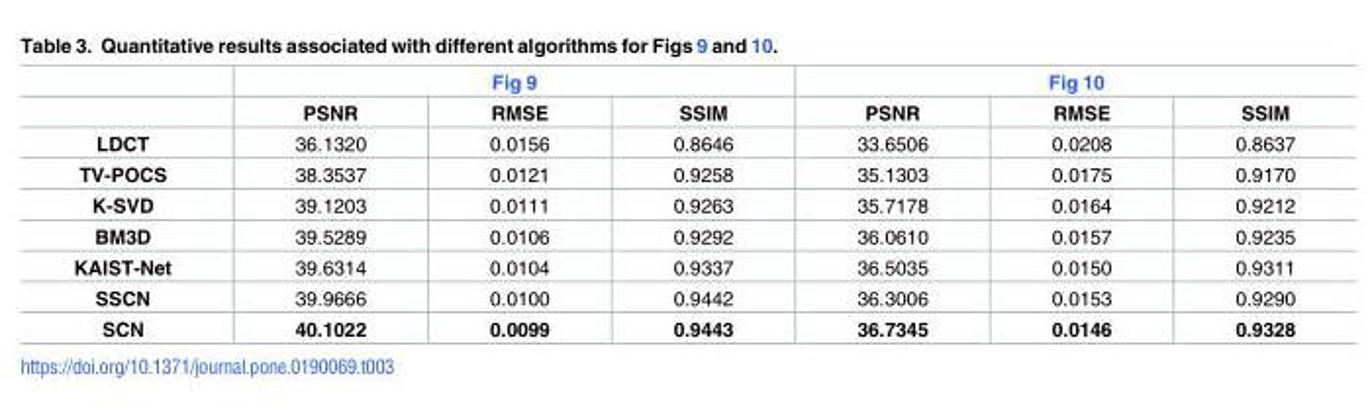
<table><thead><tr><td rowspan="2"></td><td colspan="3">Fig 9</td><td colspan="3">Fig 10</td></tr><tr><td>PSNR</td><td>RMSE</td><td>SSIM</td><td>PSNR</td><td>RMSE</td><td>SSIM</td></tr></thead><tbody><tr><td>LDCT</td><td>36.1320</td><td>0.0156</td><td>0.8646</td><td>33.6506</td><td>0.0208</td><td>0.8637</td></tr><tr><td>TV-POCS</td><td>38.3537</td><td>0.0121</td><td>0.9258</td><td>35.1303</td><td>0.0175</td><td>0.9170</td></tr><tr><td>K-SVD</td><td>39.1203</td><td>0.0111</td><td>0.9263</td><td>35.7178</td><td>0.0164</td><td>0.9212</td></tr><tr><td>BM3D</td><td>39.5289</td><td>0.0106</td><td>0.9292</td><td>36.0610</td><td>0.0157</td><td>0.9235</td></tr><tr><td>KAIST-Net</td><td>39.6314</td><td>0.0104</td><td>0.9337</td><td>36.5035</td><td>0.0150</td><td>0.9311</td></tr><tr><td>SSCN</td><td>39.9666</td><td>0.0100</td><td>0.9442</td><td>36.3006</td><td>0.0153</td><td>0.9290</td></tr><tr><td>SCN</td><td>40.1022</td><td>0.0099</td><td>0.9443</td><td>36.7345</td><td>0.0146</td><td>0.9328</td></tr></tbody></table>